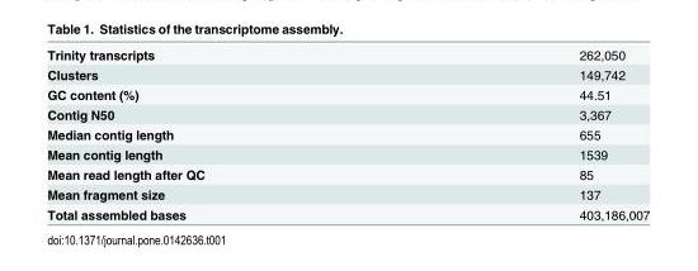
<table><tbody><tr><td>Trinity transcripts</td><td>262,050</td></tr><tr><td>Clusters</td><td>149,742</td></tr><tr><td>GC content (%)</td><td>44.51</td></tr><tr><td>Contig N50</td><td>3,367</td></tr><tr><td>Median contig length</td><td>655</td></tr><tr><td>Mean contig length</td><td>1539</td></tr><tr><td>Mean read length after QC</td><td>85</td></tr><tr><td>Mean fragment size</td><td>137</td></tr><tr><td>Total assembled bases</td><td>403,186,007</td></tr></tbody></table>